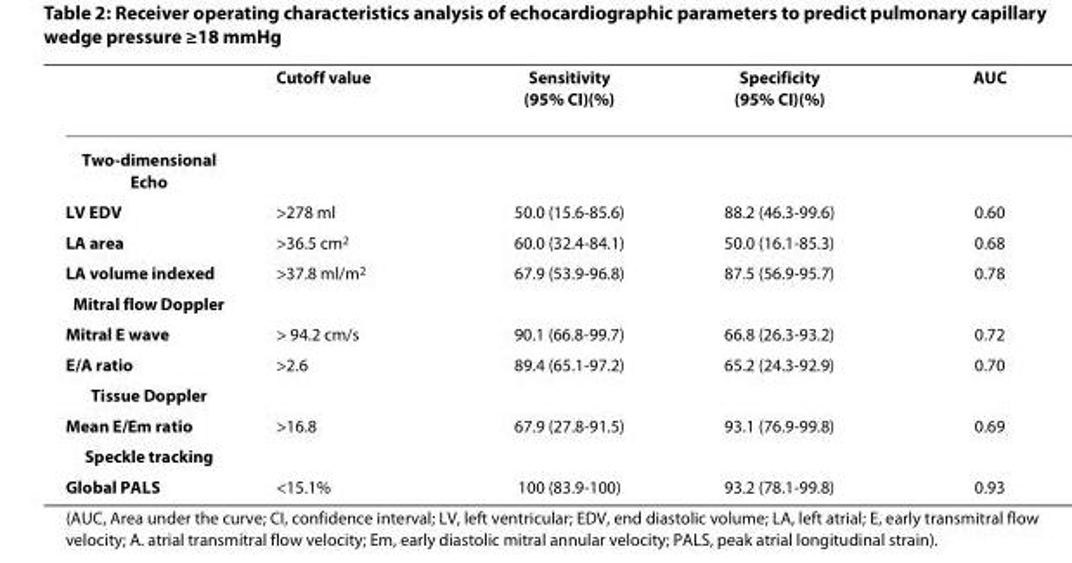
<table><thead><tr><td></td><td>Cutoff value</td><td>Sensitivity (95% CI)(%)</td><td>Specificity (95% CI)(%)</td><td>AUC</td></tr></thead><tbody><tr><td colspan="5">Two-dimensional Echo</td></tr><tr><td>LV EDV</td><td>&gt;278 ml</td><td>50.0 (15.6-85.6)</td><td>88.2 (46.3-99.6)</td><td>0.60</td></tr><tr><td>LA area</td><td>&gt;36.5 cm<sup>2</sup></td><td>60.0 (32.4-84.1)</td><td>50.0 (16.1-85.3)</td><td>0.68</td></tr><tr><td>LA volume indexed</td><td>&gt;37.8 ml/m<sup>2</sup></td><td>67.9 (53.9-96.8)</td><td>87.5 (56.9-95.7)</td><td>0.78</td></tr><tr><td colspan="5">Mitral flow Doppler</td></tr><tr><td>Mitral E wave</td><td>&gt; 94.2 cm/s</td><td>90.1 (66.8-99.7)</td><td>66.8 (26.3-93.2)</td><td>0.72</td></tr><tr><td>E/A ratio</td><td>&gt;2.6</td><td>89.4 (65.1-97.2)</td><td>65.2 (24.3-92.9)</td><td>0.70</td></tr><tr><td colspan="5">Tissue Doppler</td></tr><tr><td>Mean E/Em ratio</td><td>&gt;16.8</td><td>67.9 (27.8-91.5)</td><td>93.1 (76.9-99.8)</td><td>0.69</td></tr><tr><td colspan="5">Speckle tracking</td></tr><tr><td>Global PALS</td><td>&lt;15.1%</td><td>100 (83.9-100)</td><td>93.2 (78.1-99.8)</td><td>0.93</td></tr></tbody></table>